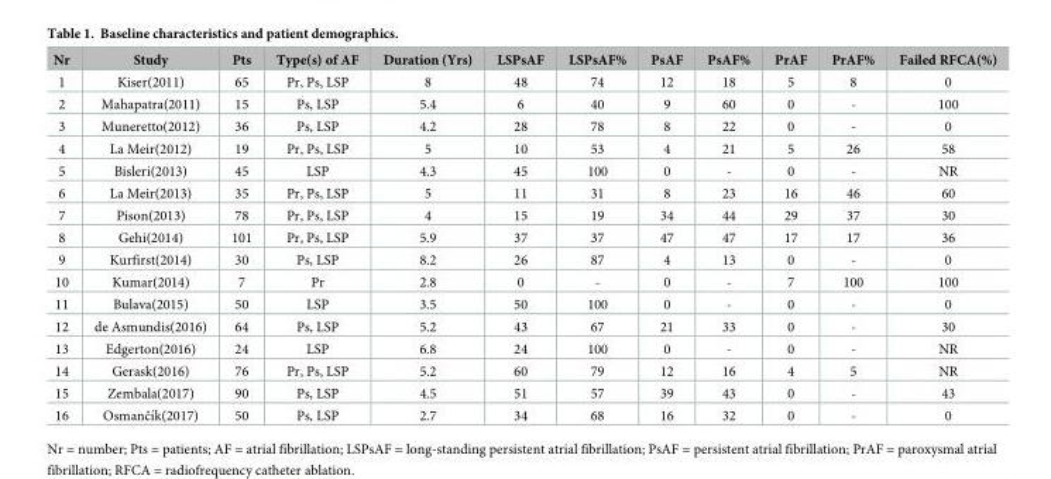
<table><thead><tr><td>Nr</td><td>Study</td><td>Pts</td><td>Type(s) of AF</td><td>Duration (Yrs)</td><td>LSPsAF</td><td>LSPsAF%</td><td>PsAF</td><td>PsAF%</td><td>PrAF</td><td>PrAF%</td><td>Failed RFCA(%)</td></tr></thead><tbody><tr><td>1</td><td>Kiser(2011)</td><td>65</td><td>Pr, Ps, LSP</td><td>8</td><td>48</td><td>74</td><td>12</td><td>18</td><td>5</td><td>8</td><td>0</td></tr><tr><td>2</td><td>Mahapatra(2011)</td><td>15</td><td>Ps, LSP</td><td>5.4</td><td>6</td><td>40</td><td>9</td><td>60</td><td>0</td><td>-</td><td>100</td></tr><tr><td>3</td><td>Muneretto(2012)</td><td>36</td><td>Ps, LSP</td><td>4.2</td><td>28</td><td>78</td><td>8</td><td>22</td><td>0</td><td>-</td><td>0</td></tr><tr><td>4</td><td>La Meir(2012)</td><td>19</td><td>Pr, Ps, LSP</td><td>5</td><td>10</td><td>53</td><td>4</td><td>21</td><td>5</td><td>26</td><td>58</td></tr><tr><td>5</td><td>Bisleri(2013)</td><td>45</td><td>LSP</td><td>4.3</td><td>45</td><td>100</td><td>0</td><td>-</td><td>0</td><td>-</td><td>NR</td></tr><tr><td>6</td><td>La Meir(2013)</td><td>35</td><td>Pr, Ps, LSP</td><td>5</td><td>11</td><td>31</td><td>8</td><td>23</td><td>16</td><td>46</td><td>60</td></tr><tr><td>7</td><td>Pison(2013)</td><td>78</td><td>Pr, Ps, LSP</td><td>4</td><td>15</td><td>19</td><td>34</td><td>44</td><td>29</td><td>37</td><td>30</td></tr><tr><td>8</td><td>Gehi(2014)</td><td>101</td><td>Pr, Ps, LSP</td><td>5.9</td><td>37</td><td>37</td><td>47</td><td>47</td><td>17</td><td>17</td><td>36</td></tr><tr><td>9</td><td>Kurfirst(2014)</td><td>30</td><td>Ps, LSP</td><td>8.2</td><td>26</td><td>87</td><td>4</td><td>13</td><td>0</td><td>-</td><td>0</td></tr><tr><td>10</td><td>Kumar(2014)</td><td>7</td><td>Pr</td><td>2.8</td><td>0</td><td>-</td><td>0</td><td>-</td><td>7</td><td>100</td><td>100</td></tr><tr><td>11</td><td>Bulava(2015)</td><td>50</td><td>LSP</td><td>3.5</td><td>50</td><td>100</td><td>0</td><td>-</td><td>0</td><td>-</td><td>0</td></tr><tr><td>12</td><td>de Asmundis(2016)</td><td>64</td><td>Ps, LSP</td><td>5.2</td><td>43</td><td>67</td><td>21</td><td>33</td><td>0</td><td>-</td><td>30</td></tr><tr><td>13</td><td>Edgerton(2016)</td><td>24</td><td>LSP</td><td>6.8</td><td>24</td><td>100</td><td>0</td><td>-</td><td>0</td><td>-</td><td>NR</td></tr><tr><td>14</td><td>Gerask(2016)</td><td>76</td><td>Pr, Ps, LSP</td><td>5.2</td><td>60</td><td>79</td><td>12</td><td>16</td><td>4</td><td>5</td><td>NR</td></tr><tr><td>15</td><td>Zembala(2017)</td><td>90</td><td>Ps, LSP</td><td>4.5</td><td>51</td><td>57</td><td>39</td><td>43</td><td>0</td><td>-</td><td>43</td></tr><tr><td>16</td><td>Osmančı´k(2017)</td><td>50</td><td>Ps, LSP</td><td>2.7</td><td>34</td><td>68</td><td>16</td><td>32</td><td>0</td><td>-</td><td>0</td></tr></tbody></table>